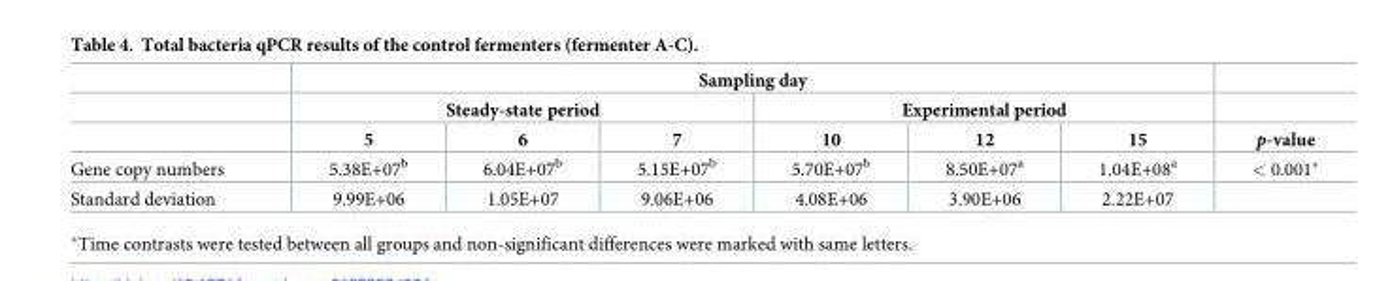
<table><thead><tr><td rowspan="3"></td><td colspan="6">Sampling day</td><td rowspan="3">p-value</td></tr><tr><td colspan="3">Steady-state period</td><td colspan="3">Experimental period</td></tr><tr><td>5</td><td>6</td><td>7</td><td>10</td><td>12</td><td>15</td></tr></thead><tbody><tr><td>Gene copy numbers</td><td>5.38E+07<sup>b</sup></td><td>6.04E+07<sup>b</sup></td><td>5.15E+07<sup>b</sup></td><td>5.70E+07<sup>b</sup></td><td>8.50E+07<sup>a</sup></td><td>1.04E+08<sup>a</sup></td><td>&lt; 0.001*</td></tr><tr><td>Standard deviation</td><td>9.99E+06</td><td>1.05E+07</td><td>9.06E+06</td><td>4.08E+06</td><td>3.90E+06</td><td>2.22E+07</td><td></td></tr></tbody></table>